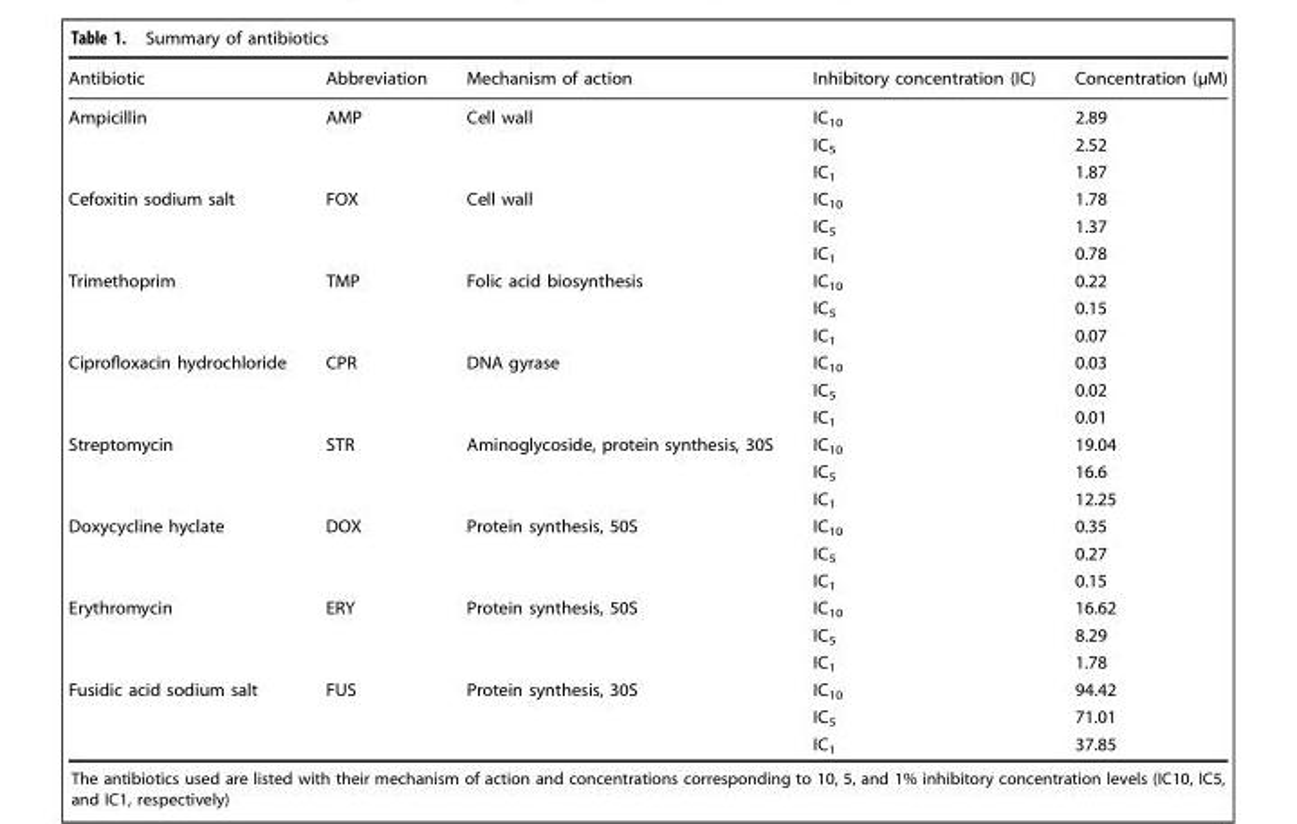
<table><thead><tr><td>Antibiotic</td><td>Abbreviation</td><td>Mechanism of action</td><td>Inhibitory concentration (IC)</td><td>Concentration (µM)</td></tr></thead><tbody><tr><td rowspan="3">Ampicillin</td><td rowspan="3">AMP</td><td rowspan="3">Cell wall</td><td>IC<sub>10</sub></td><td>2.89</td></tr><tr><td>IC<sub>5</sub></td><td>2.52</td></tr><tr><td>IC<sub>1</sub></td><td>1.87</td></tr><tr><td rowspan="3">Cefoxitin sodium salt</td><td rowspan="3">FOX</td><td rowspan="3">Cell wall</td><td>IC<sub>10</sub></td><td>1.78</td></tr><tr><td>IC<sub>5</sub></td><td>1.37</td></tr><tr><td>IC<sub>1</sub></td><td>0.78</td></tr><tr><td rowspan="3">Trimethoprim</td><td rowspan="3">TMP</td><td rowspan="3">Folic acid biosynthesis</td><td>IC<sub>10</sub></td><td>0.22</td></tr><tr><td>IC<sub>5</sub></td><td>0.15</td></tr><tr><td>IC<sub>1</sub></td><td>0.07</td></tr><tr><td rowspan="3">Ciprofloxacin hydrochloride</td><td rowspan="3">CPR</td><td rowspan="3">DNA gyrase</td><td>IC<sub>10</sub></td><td>0.03</td></tr><tr><td>IC<sub>5</sub></td><td>0.02</td></tr><tr><td>IC<sub>1</sub></td><td>0.01</td></tr><tr><td rowspan="3">Streptomycin</td><td rowspan="3">STR</td><td rowspan="3">Aminoglycoside, protein synthesis, 30S</td><td>IC<sub>10</sub></td><td>19.04</td></tr><tr><td>IC<sub>5</sub></td><td>16.6</td></tr><tr><td>IC<sub>1</sub></td><td>12.25</td></tr><tr><td rowspan="3">Doxycycline hyclate</td><td rowspan="3">DOX</td><td rowspan="3">Protein synthesis, 50S</td><td>IC<sub>10</sub></td><td>0.35</td></tr><tr><td>IC<sub>5</sub></td><td>0.27</td></tr><tr><td>IC<sub>1</sub></td><td>0.15</td></tr><tr><td rowspan="3">Erythromycin</td><td rowspan="3">ERY</td><td rowspan="3">Protein synthesis, 50S</td><td>IC<sub>10</sub></td><td>16.62</td></tr><tr><td>IC<sub>5</sub></td><td>8.29</td></tr><tr><td>IC<sub>1</sub></td><td>1.78</td></tr><tr><td rowspan="3">Fusidic acid sodium salt</td><td rowspan="3">FUS</td><td rowspan="3">Protein synthesis, 30S</td><td>IC<sub>10</sub></td><td>94.42</td></tr><tr><td>IC<sub>5</sub></td><td>71.01</td></tr><tr><td>IC<sub>1</sub></td><td>37.85</td></tr></tbody></table>